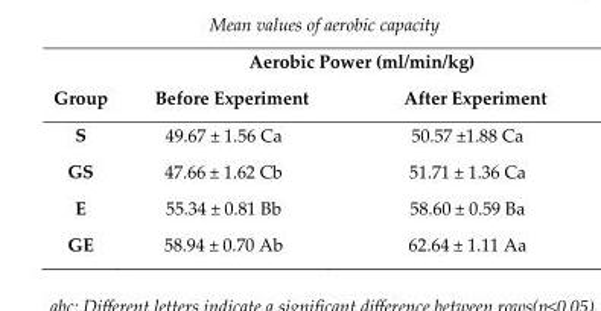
<table><thead><tr><td rowspan="2">Group</td><td colspan="2">Aerobic Power (ml/min/kg)</td></tr><tr><td>Before Experiment</td><td>After Experiment</td></tr></thead><tbody><tr><td>S</td><td>49.67 ± 1.56 Ca</td><td>50.57 ±1.88 Ca</td></tr><tr><td>GS</td><td>47.66 ± 1.62 Cb</td><td>51.71 ± 1.36 Ca</td></tr><tr><td>E</td><td>55.34 ± 0.81 Bb</td><td>58.60 ± 0.59 Ba</td></tr><tr><td>GE</td><td>58.94 ± 0.70 Ab</td><td>62.64 ± 1.11 Aa</td></tr></tbody></table>